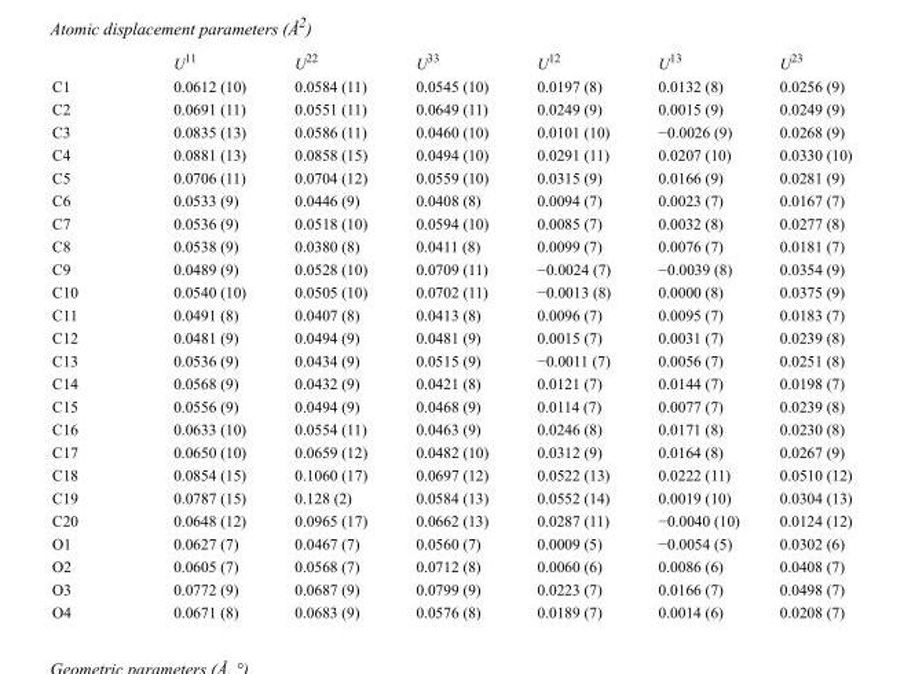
<table><thead><tr><td></td><td>U<sup>11</sup></td><td>U<sup>22</sup></td><td>U<sup>33</sup></td><td>U<sup>12</sup></td><td>U<sup>13</sup></td><td>U<sup>23</sup></td></tr></thead><tbody><tr><td>C1</td><td>0.0612 (10)</td><td>0.0584 (11)</td><td>0.0545 (10)</td><td>0.0197 (8)</td><td>0.0132 (8)</td><td>0.0256 (9)</td></tr><tr><td>C2</td><td>0.0691 (11)</td><td>0.0551 (11)</td><td>0.0649 (11)</td><td>0.0249 (9)</td><td>0.0015 (9)</td><td>0.0249 (9)</td></tr><tr><td>C3</td><td>0.0835 (13)</td><td>0.0586 (11)</td><td>0.0460 (10)</td><td>0.0101 (10)</td><td>−0.0026 (9)</td><td>0.0268 (9)</td></tr><tr><td>C4</td><td>0.0881 (13)</td><td>0.0858 (15)</td><td>0.0494 (10)</td><td>0.0291 (11)</td><td>0.0207 (10)</td><td>0.0330 (10)</td></tr><tr><td>C5</td><td>0.0706 (11)</td><td>0.0704 (12)</td><td>0.0559 (10)</td><td>0.0315 (9)</td><td>0.0166 (9)</td><td>0.0281 (9)</td></tr><tr><td>C6</td><td>0.0533 (9)</td><td>0.0446 (9)</td><td>0.0408 (8)</td><td>0.0094 (7)</td><td>0.0023 (7)</td><td>0.0167 (7)</td></tr><tr><td>C7</td><td>0.0536 (9)</td><td>0.0518 (10)</td><td>0.0594 (10)</td><td>0.0085 (7)</td><td>0.0032 (8)</td><td>0.0277 (8)</td></tr><tr><td>C8</td><td>0.0538 (9)</td><td>0.0380 (8)</td><td>0.0411 (8)</td><td>0.0099 (7)</td><td>0.0076 (7)</td><td>0.0181 (7)</td></tr><tr><td>C9</td><td>0.0489 (9)</td><td>0.0528 (10)</td><td>0.0709 (11)</td><td>−0.0024 (7)</td><td>−0.0039 (8)</td><td>0.0354 (9)</td></tr><tr><td>C10</td><td>0.0540 (10)</td><td>0.0505 (10)</td><td>0.0702 (11)</td><td>−0.0013 (8)</td><td>0.0000 (8)</td><td>0.0375 (9)</td></tr><tr><td>C11</td><td>0.0491 (8)</td><td>0.0407 (8)</td><td>0.0413 (8)</td><td>0.0096 (7)</td><td>0.0095 (7)</td><td>0.0183 (7)</td></tr><tr><td>C12</td><td>0.0481 (9)</td><td>0.0494 (9)</td><td>0.0481 (9)</td><td>0.0015 (7)</td><td>0.0031 (7)</td><td>0.0239 (8)</td></tr><tr><td>C13</td><td>0.0536 (9)</td><td>0.0434 (9)</td><td>0.0515 (9)</td><td>−0.0011 (7)</td><td>0.0056 (7)</td><td>0.0251 (8)</td></tr><tr><td>C14</td><td>0.0568 (9)</td><td>0.0432 (9)</td><td>0.0421 (8)</td><td>0.0121 (7)</td><td>0.0144 (7)</td><td>0.0198 (7)</td></tr><tr><td>C15</td><td>0.0556 (9)</td><td>0.0494 (9)</td><td>0.0468 (9)</td><td>0.0114 (7)</td><td>0.0077 (7)</td><td>0.0239 (8)</td></tr><tr><td>C16</td><td>0.0633 (10)</td><td>0.0554 (11)</td><td>0.0463 (9)</td><td>0.0246 (8)</td><td>0.0171 (8)</td><td>0.0230 (8)</td></tr><tr><td>C17</td><td>0.0650 (10)</td><td>0.0659 (12)</td><td>0.0482 (10)</td><td>0.0312 (9)</td><td>0.0164 (8)</td><td>0.0267 (9)</td></tr><tr><td>C18</td><td>0.0854 (15)</td><td>0.1060 (17)</td><td>0.0697 (12)</td><td>0.0522 (13)</td><td>0.0222 (11)</td><td>0.0510 (12)</td></tr><tr><td>C19</td><td>0.0787 (15)</td><td>0.128 (2)</td><td>0.0584 (13)</td><td>0.0552 (14)</td><td>0.0019 (10)</td><td>0.0304 (13)</td></tr><tr><td>C20</td><td>0.0648 (12)</td><td>0.0965 (17)</td><td>0.0662 (13)</td><td>0.0287 (11)</td><td>−0.0040 (10)</td><td>0.0124 (12)</td></tr><tr><td>O1</td><td>0.0627 (7)</td><td>0.0467 (7)</td><td>0.0560 (7)</td><td>0.0009 (5)</td><td>−0.0054 (5)</td><td>0.0302 (6)</td></tr><tr><td>O2</td><td>0.0605 (7)</td><td>0.0568 (7)</td><td>0.0712 (8)</td><td>0.0060 (6)</td><td>0.0086 (6)</td><td>0.0408 (7)</td></tr><tr><td>O3</td><td>0.0772 (9)</td><td>0.0687 (9)</td><td>0.0799 (9)</td><td>0.0223 (7)</td><td>0.0166 (7)</td><td>0.0498 (7)</td></tr><tr><td>O4</td><td>0.0671 (8)</td><td>0.0683 (9)</td><td>0.0576 (8)</td><td>0.0189 (7)</td><td>0.0014 (6)</td><td>0.0208 (7)</td></tr></tbody></table>